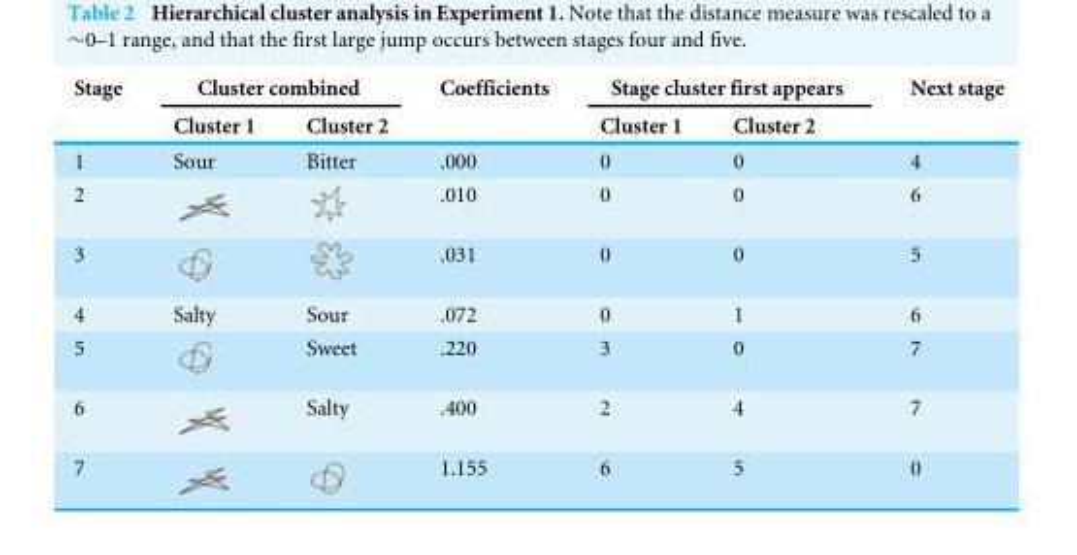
<table><thead><tr><td rowspan="2">Stage</td><td colspan="2">Cluster combined</td><td rowspan="2">Coefficients</td><td colspan="2">Stage cluster first appears</td><td rowspan="2">Next stage</td></tr><tr><td>Cluster 1</td><td>Cluster 2</td><td>Cluster 1</td><td>Cluster 2</td></tr></thead><tbody><tr><td>1</td><td>Sour</td><td>Bitter</td><td>.000</td><td>0</td><td>0</td><td>4</td></tr><tr><td>2</td><td></td><td></td><td>.010</td><td>0</td><td>0</td><td>6</td></tr><tr><td>3</td><td></td><td></td><td>.031</td><td>0</td><td>0</td><td>5</td></tr><tr><td>4</td><td>Salty</td><td>Sour</td><td>.072</td><td>0</td><td>1</td><td>6</td></tr><tr><td>5</td><td></td><td>Sweet</td><td>.220</td><td>3</td><td>0</td><td>7</td></tr><tr><td>6</td><td></td><td>Salty</td><td>.400</td><td>2</td><td>4</td><td>7</td></tr><tr><td>7</td><td></td><td></td><td>1.155</td><td>6</td><td>5</td><td>0</td></tr></tbody></table>